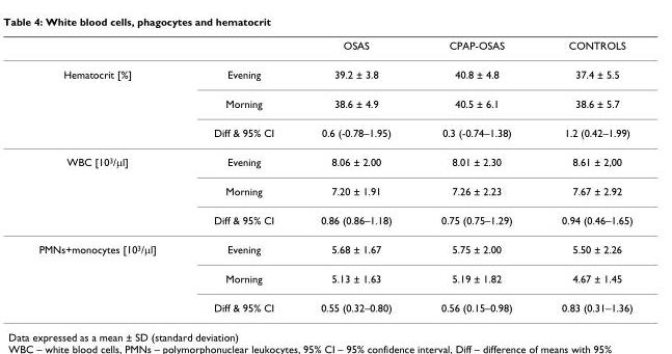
<table><thead><tr><td></td><td></td><td>OSAS</td><td>CPAP-OSAS</td><td>CONTROLS</td></tr></thead><tbody><tr><td rowspan="3">Hematocrit [%]</td><td>Evening</td><td>39.2 ± 3.8</td><td>40.8 ± 4.8</td><td>37.4 ± 5.5</td></tr><tr><td>Morning</td><td>38.6 ± 4.9</td><td>40.5 ± 6.1</td><td>38.6 ± 5.7</td></tr><tr><td>Diff &amp; 95% CI</td><td>0.6 (-0.78–1.95)</td><td>0.3 (-0.74–1.38)</td><td>1.2 (0.42–1.99)</td></tr><tr><td rowspan="3">WBC [10<sup>3</sup>/μl]</td><td>Evening</td><td>8.06 ± 2.00</td><td>8.01 ± 2.30</td><td>8.61 ± 2,00</td></tr><tr><td>Morning</td><td>7.20 ± 1.91</td><td>7.26 ± 2.23</td><td>7.67 ± 2.92</td></tr><tr><td>Diff &amp; 95% CI</td><td>0.86 (0.86–1.18)</td><td>0.75 (0.75–1.29)</td><td>0.94 (0.46–1.65)</td></tr><tr><td rowspan="3">PMNs+monocytes [10<sup>3</sup>/μl]</td><td>Evening</td><td>5.68 ± 1.67</td><td>5.75 ± 2.00</td><td>5.50 ± 2.26</td></tr><tr><td>Morning</td><td>5.13 ± 1.63</td><td>5.19 ± 1.82</td><td>4.67 ± 1.45</td></tr><tr><td>Diff &amp; 95% CI</td><td>0.55 (0.32–0.80)</td><td>0.56 (0.15–0.98)</td><td>0.83 (0.31–1.36)</td></tr></tbody></table>